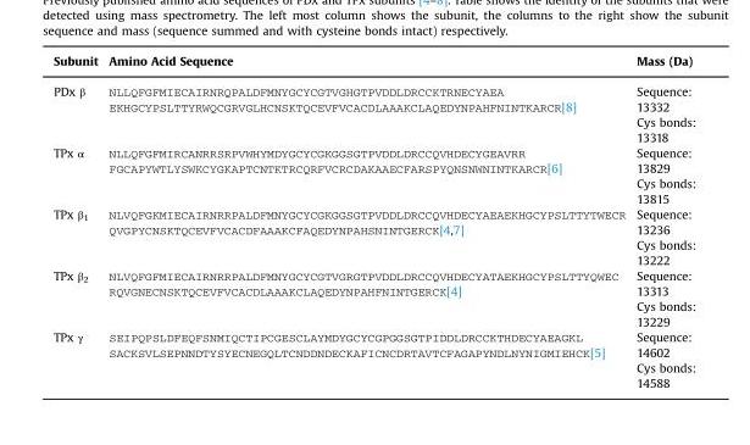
<table><thead><tr><td>Subunit</td><td>Amino Acid Sequence</td><td>Mass (Da)</td></tr></thead><tbody><tr><td rowspan="2">PDx β</td><td rowspan="2">NLLQFGFMIECAIRNRQPALDFMNYGCYCGTVGHGTPVDDLDRCCKTRNECYAEA EKHGCYPSLTTYRWQCGRVGLHCNSKTQCEVFVCACDLAAAKCLAQEDYNPAHFNINTKARCR[8]</td><td>Sequence: 13332</td></tr><tr><td>Cys bonds: 13318</td></tr><tr><td rowspan="2">TPx α</td><td rowspan="2">NLLQFGFMIRCANRRSRPVWHYMDYGCYCGKGGSGTPVDDLDRCCQVHDECYGEAVRR FGCAPYWTLYSWKCYGKAPTCNTKTRCQRFVCRCDAKAAECFARSPYQNSNWNINTKARCR[6]</td><td>Sequence: 13829</td></tr><tr><td>Cys bonds: 13815</td></tr><tr><td rowspan="2">TPx β<sub>1</sub></td><td rowspan="2">NLVQFGKMIECAIRNRRPALDFMNYGCYCGKGGSGTPVDDLDRCCQVHDECYAEAEKHGCYPSLTTYTWECR QVGPYCNSKTQCEVFVCACDFAAAKCFAQEDYNPAHSNINTGERCK[4,7]</td><td>Sequence: 13236</td></tr><tr><td>Cys bonds: 13222</td></tr><tr><td rowspan="2">TPx β<sub>2</sub></td><td rowspan="2">NLVQFGFMIECAIRNRRPALDFMNYGCYCGTVGRGTPVDDLDRCCQVHDECYATAEKHGCYPSLTTYQWEC RQVGNECNSKTQCEVFVCACDLAAAKCLAQEDYNPAHFNINTGERCK[4]</td><td>Sequence: 13313</td></tr><tr><td>Cys bonds: 13229</td></tr><tr><td rowspan="2">TPx γ</td><td rowspan="2">SEIPQPSLDFEQFSNMIQCTIPCGESCLAYMDYGCYCGPGGSGTPIDDLDRCCKTHDECYAEAGKL SACKSVLSEPNNDTYSYECNEGQLTCNDDNDECKAFICNCDRTAVTCFAGAPYNDLNYNIGMIEHCK[5]</td><td>Sequence: 14602</td></tr><tr><td>Cys bonds: 14588</td></tr></tbody></table>